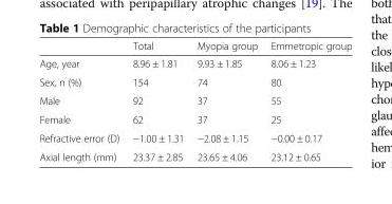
<table><thead><tr><td></td><td>Total</td><td>Myopia group</td><td>Emmetropic group</td></tr></thead><tbody><tr><td>Age, year</td><td>8.96 ± 1.81</td><td>9.93 ± 1.85</td><td>8.06 ± 1.23</td></tr><tr><td>Sex, n (%)</td><td>154</td><td>74</td><td>80</td></tr><tr><td>Male</td><td>92</td><td>37</td><td>55</td></tr><tr><td>Female</td><td>62</td><td>37</td><td>25</td></tr><tr><td>Refractive error (D)</td><td>−1.00 ± 1.31</td><td>−2.08 ± 1.15</td><td>−0.00 ± 0.17</td></tr><tr><td>Axial length (mm)</td><td>23.37 ± 2.85</td><td>23.65 ± 4.06</td><td>23.12 ± 0.65</td></tr></tbody></table>